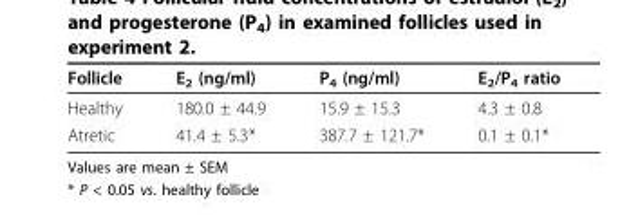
<table><thead><tr><td>Follicle</td><td>E<sub>2</sub> (ng/ml)</td><td>P<sub>4</sub> (ng/ml)</td><td>E<sub>2</sub>/P<sub>4</sub> ratio</td></tr></thead><tbody><tr><td>Healthy</td><td>180.0 ± 44.9</td><td>15.9 ± 15.3</td><td>4.3 ± 0.8</td></tr><tr><td>Atretic</td><td>41.4 ± 5.3*</td><td>387.7 ± 121.7*</td><td>0.1 ± 0.1*</td></tr></tbody></table>